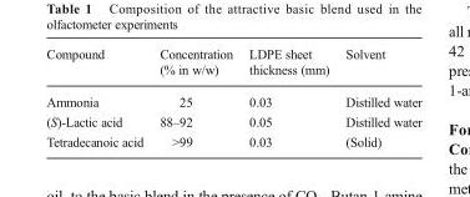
<table><thead><tr><td>Compound</td><td>Concentration (% in w/w)</td><td>LDPE sheet thickness (mm)</td><td>Solvent</td></tr></thead><tbody><tr><td>Ammonia</td><td>25</td><td>0.03</td><td>Distilled water</td></tr><tr><td>(S)-Lactic acid</td><td>88–92</td><td>0.05</td><td>Distilled water</td></tr><tr><td>Tetradecanoic acid</td><td>&gt;99</td><td>0.03</td><td>(Solid)</td></tr></tbody></table>